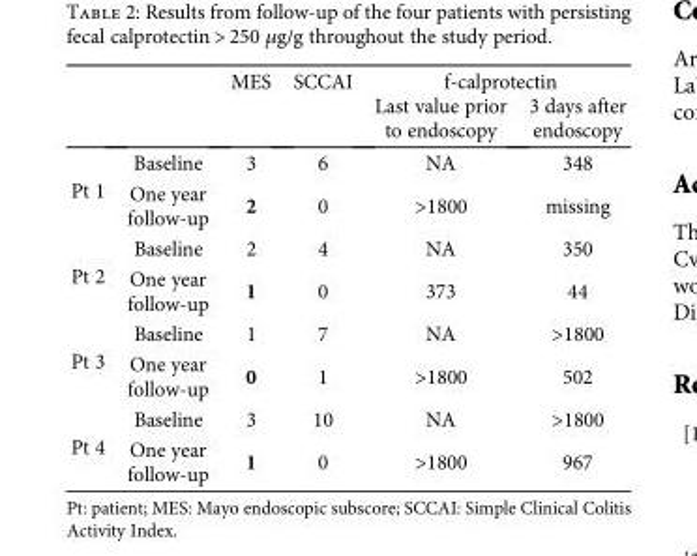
<table><thead><tr><td rowspan="2"></td><td rowspan="2"></td><td rowspan="2">MES</td><td rowspan="2">SCCAI</td><td colspan="2">f-calprotectin</td></tr><tr><td>Last value prior to endoscopy</td><td>3 days after endoscopy</td></tr></thead><tbody><tr><td rowspan="2">Pt 1</td><td>Baseline</td><td>3</td><td>6</td><td>NA</td><td>348</td></tr><tr><td>One year follow-up</td><td>2</td><td>0</td><td>&gt;1800</td><td>missing</td></tr><tr><td rowspan="2">Pt 2</td><td>Baseline</td><td>2</td><td>4</td><td>NA</td><td>350</td></tr><tr><td>One year follow-up</td><td>1</td><td>0</td><td>373</td><td>44</td></tr><tr><td rowspan="2">Pt 3</td><td>Baseline</td><td>1</td><td>7</td><td>NA</td><td>&gt;1800</td></tr><tr><td>One year follow-up</td><td>0</td><td>1</td><td>&gt;1800</td><td>502</td></tr><tr><td rowspan="2">Pt 4</td><td>Baseline</td><td>3</td><td>10</td><td>NA</td><td>&gt;1800</td></tr><tr><td>One year follow-up</td><td>1</td><td>0</td><td>&gt;1800</td><td>967</td></tr></tbody></table>